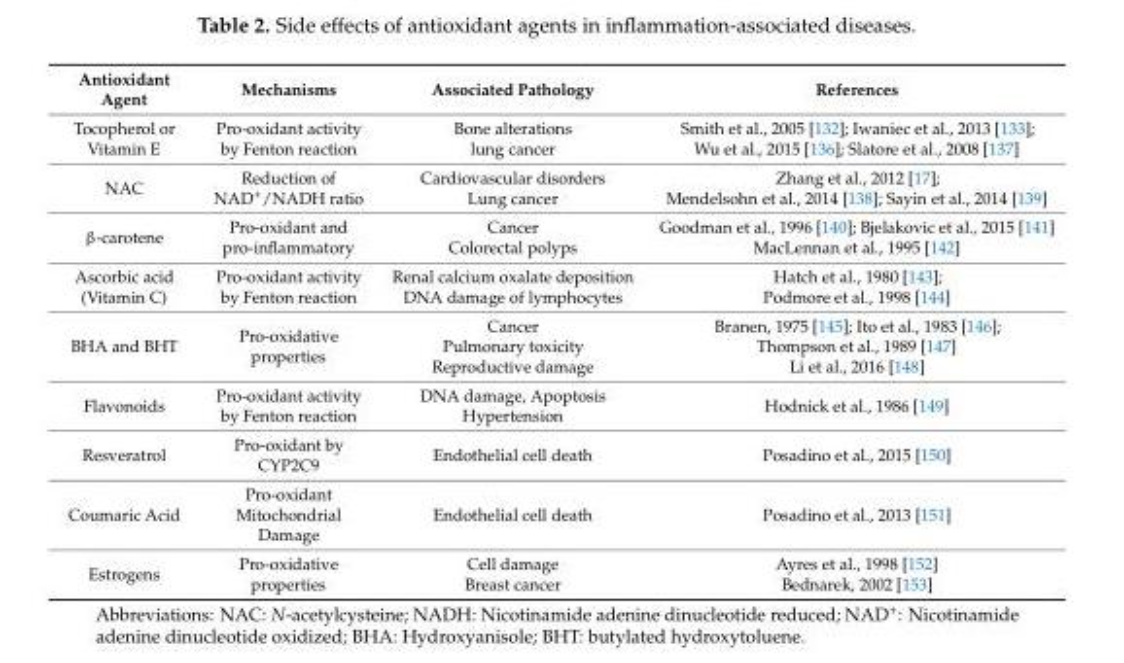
<table><thead><tr><td>Antioxidant Agent</td><td>Mechanisms</td><td>Associated Pathology</td><td>References</td></tr></thead><tbody><tr><td>Tocopherol or Vitamin E</td><td>Pro-oxidant activity by Fenton reaction</td><td>Bone alterations lung cancer</td><td>Smith et al., 2005 [132]; Iwaniec et al., 2013 [133]; Wu et al., 2015 [136]; Slatore et al., 2008 [137]</td></tr><tr><td>NAC</td><td>Reduction of NAD<sup>+</sup>/NADH ratio</td><td>Cardiovascular disorders Lung cancer</td><td>Zhang et al., 2012 [17]; Mendelsohn et al., 2014 [138]; Sayin et al., 2014 [139]</td></tr><tr><td>β-carotene</td><td>Pro-oxidant and pro-inflammatory</td><td>Cancer Colorectal polyps</td><td>Goodman et al., 1996 [140]; Bjelakovic et al., 2015 [141] MacLennan et al., 1995 [142]</td></tr><tr><td>Ascorbic acid (Vitamin C)</td><td>Pro-oxidant activity by Fenton reaction</td><td>Renal calcium oxalate deposition DNA damage of lymphocytes</td><td>Hatch et al., 1980 [143]; Podmore et al., 1998 [144]</td></tr><tr><td>BHA and BHT</td><td>Pro-oxidative properties</td><td>Cancer Pulmonary toxicity Reproductive damage</td><td>Branen, 1975 [145]; Ito et al., 1983 [146]; Thompson et al., 1989 [147] Li et al., 2016 [148]</td></tr><tr><td>Flavonoids</td><td>Pro-oxidant activity by Fenton reaction</td><td>DNA damage, Apoptosis Hypertension</td><td>Hodnick et al., 1986 [149]</td></tr><tr><td>Resveratrol</td><td>Pro-oxidant by CYP2C9</td><td>Endothelial cell death</td><td>Posadino et al., 2015 [150]</td></tr><tr><td>Coumaric Acid</td><td>Pro-oxidant Mitochondrial Damage</td><td>Endothelial cell death</td><td>Posadino et al., 2013 [151]</td></tr><tr><td>Estrogens</td><td>Pro-oxidative properties</td><td>Cell damage Breast cancer</td><td>Ayres et al., 1998 [152] Bednarek, 2002 [153]</td></tr></tbody></table>